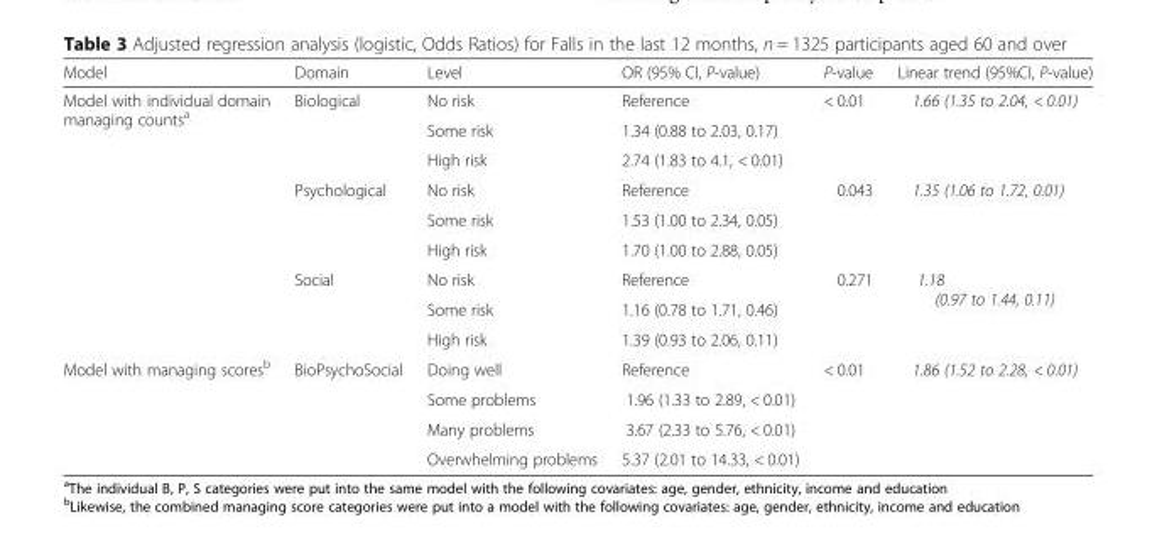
<table><thead><tr><td>Model</td><td>Domain</td><td>Level</td><td>OR (95% CI, P-value)</td><td>P-value</td><td>Linear trend (95%CI, P-value)</td></tr></thead><tbody><tr><td rowspan="9">Model with individual domain managing counts<sup>a</sup></td><td rowspan="3">Biological</td><td>No risk</td><td>Reference</td><td rowspan="3">&lt; 0.01</td><td rowspan="3">1.66 (1.35 to 2.04, &lt; 0.01)</td></tr><tr><td>Some risk</td><td>1.34 (0.88 to 2.03, 0.17)</td></tr><tr><td>High risk</td><td>2.74 (1.83 to 4.1, &lt; 0.01)</td></tr><tr><td rowspan="3">Psychological</td><td>No risk</td><td>Reference</td><td rowspan="3">0.043</td><td rowspan="3">1.35 (1.06 to 1.72, 0.01)</td></tr><tr><td>Some risk</td><td>1.53 (1.00 to 2.34, 0.05)</td></tr><tr><td>High risk</td><td>1.70 (1.00 to 2.88, 0.05)</td></tr><tr><td rowspan="3">Social</td><td>No risk</td><td>Reference</td><td rowspan="3">0.271</td><td rowspan="3">1.18 (0.97 to 1.44, 0.11)</td></tr><tr><td>Some risk</td><td>1.16 (0.78 to 1.71, 0.46)</td></tr><tr><td>High risk</td><td>1.39 (0.93 to 2.06, 0.11)</td></tr><tr><td rowspan="4">Model with managing scores<sup>b</sup></td><td rowspan="4">BioPsychoSocial</td><td>Doing well</td><td>Reference</td><td rowspan="4">&lt; 0.01</td><td rowspan="4">1.86 (1.52 to 2.28, &lt; 0.01)</td></tr><tr><td>Some problems</td><td>1.96 (1.33 to 2.89, &lt; 0.01)</td></tr><tr><td>Many problems</td><td>3.67 (2.33 to 5.76, &lt; 0.01)</td></tr><tr><td>Overwhelming problems</td><td>5.37 (2.01 to 14.33, &lt; 0.01)</td></tr></tbody></table>